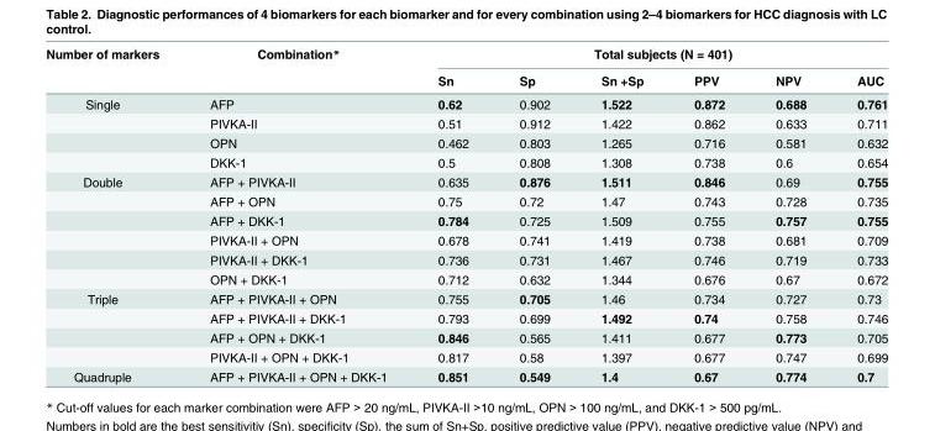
<table><thead><tr><td rowspan="2">Number of markers</td><td rowspan="2">Combination*</td><td colspan="6">Total subjects (N = 401)</td></tr><tr><td>Sn</td><td>Sp</td><td>Sn +Sp</td><td>PPV</td><td>NPV</td><td>AUC</td></tr></thead><tbody><tr><td rowspan="4">Single</td><td>AFP</td><td>0.62</td><td>0.902</td><td>1.522</td><td>0.872</td><td>0.688</td><td>0.761</td></tr><tr><td>PIVKA-II</td><td>0.51</td><td>0.912</td><td>1.422</td><td>0.862</td><td>0.633</td><td>0.711</td></tr><tr><td>OPN</td><td>0.462</td><td>0.803</td><td>1.265</td><td>0.716</td><td>0.581</td><td>0.632</td></tr><tr><td>DKK-1</td><td>0.5</td><td>0.808</td><td>1.308</td><td>0.738</td><td>0.6</td><td>0.654</td></tr><tr><td rowspan="6">Double</td><td>AFP + PIVKA-II</td><td>0.635</td><td>0.876</td><td>1.511</td><td>0.846</td><td>0.69</td><td>0.755</td></tr><tr><td>AFP + OPN</td><td>0.75</td><td>0.72</td><td>1.47</td><td>0.743</td><td>0.728</td><td>0.735</td></tr><tr><td>AFP + DKK-1</td><td>0.784</td><td>0.725</td><td>1.509</td><td>0.755</td><td>0.757</td><td>0.755</td></tr><tr><td>PIVKA-II + OPN</td><td>0.678</td><td>0.741</td><td>1.419</td><td>0.738</td><td>0.681</td><td>0.709</td></tr><tr><td>PIVKA-II + DKK-1</td><td>0.736</td><td>0.731</td><td>1.467</td><td>0.746</td><td>0.719</td><td>0.733</td></tr><tr><td>OPN + DKK-1</td><td>0.712</td><td>0.632</td><td>1.344</td><td>0.676</td><td>0.67</td><td>0.672</td></tr><tr><td rowspan="4">Triple</td><td>AFP + PIVKA-II + OPN</td><td>0.755</td><td>0.705</td><td>1.46</td><td>0.734</td><td>0.727</td><td>0.73</td></tr><tr><td>AFP + PIVKA-II + DKK-1</td><td>0.793</td><td>0.699</td><td>1.492</td><td>0.74</td><td>0.758</td><td>0.746</td></tr><tr><td>AFP + OPN + DKK-1</td><td>0.846</td><td>0.565</td><td>1.411</td><td>0.677</td><td>0.773</td><td>0.705</td></tr><tr><td>PIVKA-II + OPN + DKK-1</td><td>0.817</td><td>0.58</td><td>1.397</td><td>0.677</td><td>0.747</td><td>0.699</td></tr><tr><td>Quadruple</td><td>AFP + PIVKA-II + OPN + DKK-1</td><td>0.851</td><td>0.549</td><td>1.4</td><td>0.67</td><td>0.774</td><td>0.7</td></tr></tbody></table>